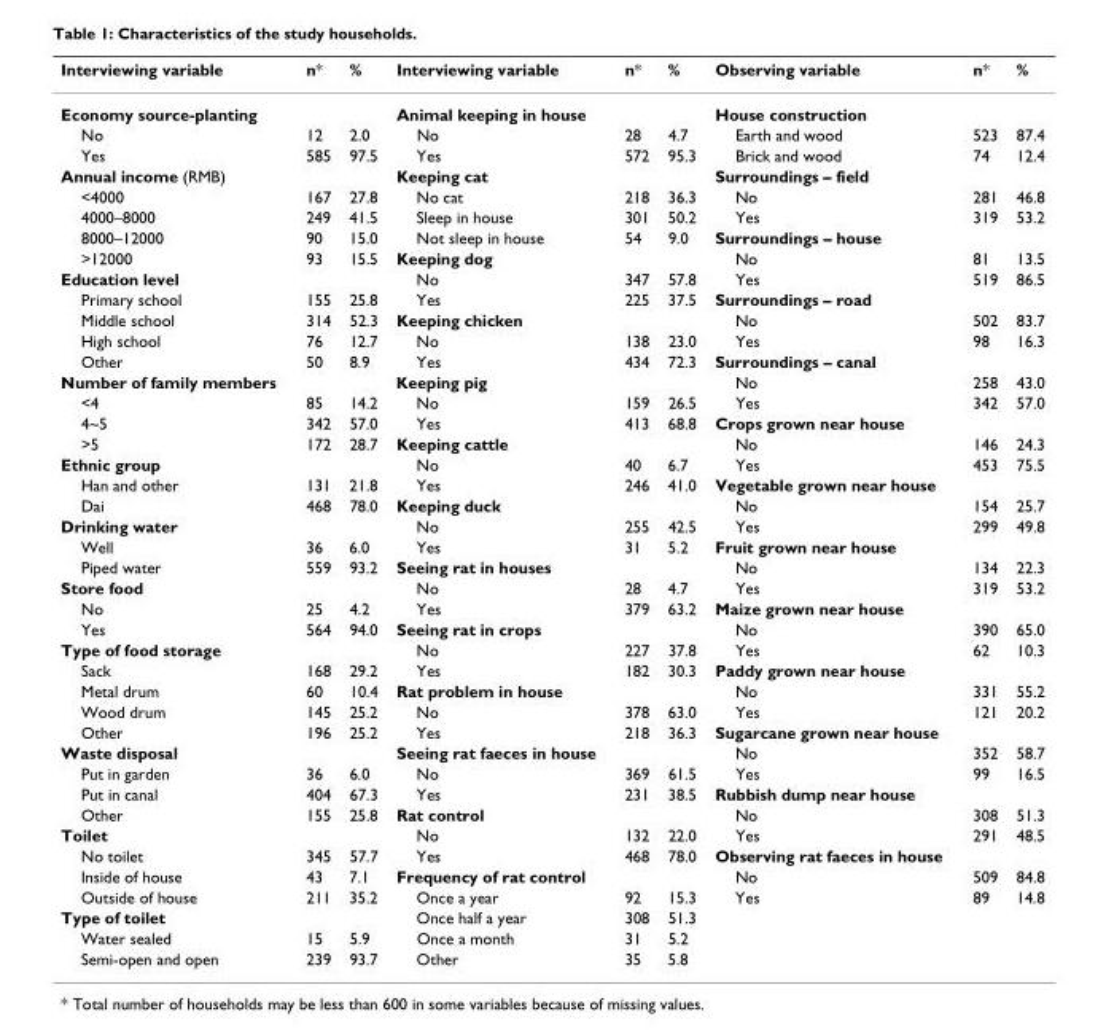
<table><thead><tr><td>Interviewing variable</td><td>n*</td><td>%</td><td>Interviewing variable</td><td>n*</td><td>%</td><td>Observing variable</td><td>n*</td><td>%</td></tr></thead><tbody><tr><td>Economy source-planting</td><td></td><td></td><td>Animal keeping in house</td><td></td><td></td><td>House construction</td><td></td><td></td></tr><tr><td>No</td><td>12</td><td>2.0</td><td>No</td><td>28</td><td>4.7</td><td>Earth and wood</td><td>523</td><td>87.4</td></tr><tr><td>Yes</td><td>585</td><td>97.5</td><td>Yes</td><td>572</td><td>95.3</td><td>Brick and wood</td><td>74</td><td>12.4</td></tr><tr><td>Annual income (RMB)</td><td></td><td></td><td>Keeping cat</td><td></td><td></td><td>Surroundings – field</td><td></td><td></td></tr><tr><td>&lt;4000</td><td>167</td><td>27.8</td><td>No cat</td><td>218</td><td>36.3</td><td>No</td><td>281</td><td>46.8</td></tr><tr><td>4000–8000</td><td>249</td><td>41.5</td><td>Sleep in house</td><td>301</td><td>50.2</td><td>Yes</td><td>319</td><td>53.2</td></tr><tr><td>8000–12000</td><td>90</td><td>15.0</td><td>Not sleep in house</td><td>54</td><td>9.0</td><td>Surroundings – house</td><td></td><td></td></tr><tr><td>&gt;12000</td><td>93</td><td>15.5</td><td>Keeping dog</td><td></td><td></td><td>No</td><td>81</td><td>13.5</td></tr><tr><td>Education level</td><td></td><td></td><td>No</td><td>347</td><td>57.8</td><td>Yes</td><td>519</td><td>86.5</td></tr><tr><td>Primary school</td><td>155</td><td>25.8</td><td>Yes</td><td>225</td><td>37.5</td><td>Surroundings – road</td><td></td><td></td></tr><tr><td>Middle school</td><td>314</td><td>52.3</td><td>Keeping chicken</td><td></td><td></td><td>No</td><td>502</td><td>83.7</td></tr><tr><td>High school</td><td>76</td><td>12.7</td><td>No</td><td>138</td><td>23.0</td><td>Yes</td><td>98</td><td>16.3</td></tr><tr><td>Other</td><td>50</td><td>8.9</td><td>Yes</td><td>434</td><td>72.3</td><td>Surroundings – canal</td><td></td><td></td></tr><tr><td>Number of family members</td><td></td><td></td><td>Keeping pig</td><td></td><td></td><td>No</td><td>258</td><td>43.0</td></tr><tr><td>&lt;4</td><td>85</td><td>14.2</td><td>No</td><td>159</td><td>26.5</td><td>Yes</td><td>342</td><td>57.0</td></tr><tr><td>4~5</td><td>342</td><td>57.0</td><td>Yes</td><td>413</td><td>68.8</td><td>Crops grown near house</td><td></td><td></td></tr><tr><td>&gt;5</td><td>172</td><td>28.7</td><td>Keeping cattle</td><td></td><td></td><td>No</td><td>146</td><td>24.3</td></tr><tr><td>Ethnic group</td><td></td><td></td><td>No</td><td>40</td><td>6.7</td><td>Yes</td><td>453</td><td>75.5</td></tr><tr><td>Han and other</td><td>131</td><td>21.8</td><td>Yes</td><td>246</td><td>41.0</td><td>Vegetable grown near house</td><td></td><td></td></tr><tr><td>Dai</td><td>468</td><td>78.0</td><td>Keeping duck</td><td></td><td></td><td>No</td><td>154</td><td>25.7</td></tr><tr><td>Drinking water</td><td></td><td></td><td>No</td><td>255</td><td>42.5</td><td>Yes</td><td>299</td><td>49.8</td></tr><tr><td>Well</td><td>36</td><td>6.0</td><td>Yes</td><td>31</td><td>5.2</td><td>Fruit grown near house</td><td></td><td></td></tr><tr><td>Piped water</td><td>559</td><td>93.2</td><td>Seeing rat in houses</td><td></td><td></td><td>No</td><td>134</td><td>22.3</td></tr><tr><td>Store food</td><td></td><td></td><td>No</td><td>28</td><td>4.7</td><td>Yes</td><td>319</td><td>53.2</td></tr><tr><td>No</td><td>25</td><td>4.2</td><td>Yes</td><td>379</td><td>63.2</td><td>Maize grown near house</td><td></td><td></td></tr><tr><td>Yes</td><td>564</td><td>94.0</td><td>Seeing rat in crops</td><td></td><td></td><td>No</td><td>390</td><td>65.0</td></tr><tr><td>Type of food storage</td><td></td><td></td><td>No</td><td>227</td><td>37.8</td><td>Yes</td><td>62</td><td>10.3</td></tr><tr><td>Sack</td><td>168</td><td>29.2</td><td>Yes</td><td>182</td><td>30.3</td><td>Paddy grown near house</td><td></td><td></td></tr><tr><td>Metal drum</td><td>60</td><td>10.4</td><td>Rat problem in house</td><td></td><td></td><td>No</td><td>331</td><td>55.2</td></tr><tr><td>Wood drum</td><td>145</td><td>25.2</td><td>No</td><td>378</td><td>63.0</td><td>Yes</td><td>121</td><td>20.2</td></tr><tr><td>Other</td><td>196</td><td>25.2</td><td>Yes</td><td>218</td><td>36.3</td><td>Sugarcane grown near house</td><td></td><td></td></tr><tr><td>Waste disposal</td><td></td><td></td><td>Seeing rat faeces in house</td><td></td><td></td><td>No</td><td>352</td><td>58.7</td></tr><tr><td>Put in garden</td><td>36</td><td>6.0</td><td>No</td><td>369</td><td>61.5</td><td>Yes</td><td>99</td><td>16.5</td></tr><tr><td>Put in canal</td><td>404</td><td>67.3</td><td>Yes</td><td>231</td><td>38.5</td><td>Rubbish dump near house</td><td></td><td></td></tr><tr><td>Other</td><td>155</td><td>25.8</td><td>Rat control</td><td></td><td></td><td>No</td><td>308</td><td>51.3</td></tr><tr><td>Toilet</td><td></td><td></td><td>No</td><td>132</td><td>22.0</td><td>Yes</td><td>291</td><td>48.5</td></tr><tr><td>No toilet</td><td>345</td><td>57.7</td><td>Yes</td><td>468</td><td>78.0</td><td>Observing rat faeces in house</td><td></td><td></td></tr><tr><td>Inside of house</td><td>43</td><td>7.1</td><td>Frequency of rat control</td><td></td><td></td><td>No</td><td>509</td><td>84.8</td></tr><tr><td>Outside of house</td><td>211</td><td>35.2</td><td>Once a year</td><td>92</td><td>15.3</td><td>Yes</td><td>89</td><td>14.8</td></tr><tr><td>Type of toilet</td><td></td><td></td><td>Once half a year</td><td>308</td><td>51.3</td><td></td><td></td><td></td></tr><tr><td>Water sealed</td><td>15</td><td>5.9</td><td>Once a month</td><td>31</td><td>5.2</td><td></td><td></td><td></td></tr><tr><td>Semi-open and open</td><td>239</td><td>93.7</td><td>Other</td><td>35</td><td>5.8</td><td></td><td></td><td></td></tr></tbody></table>